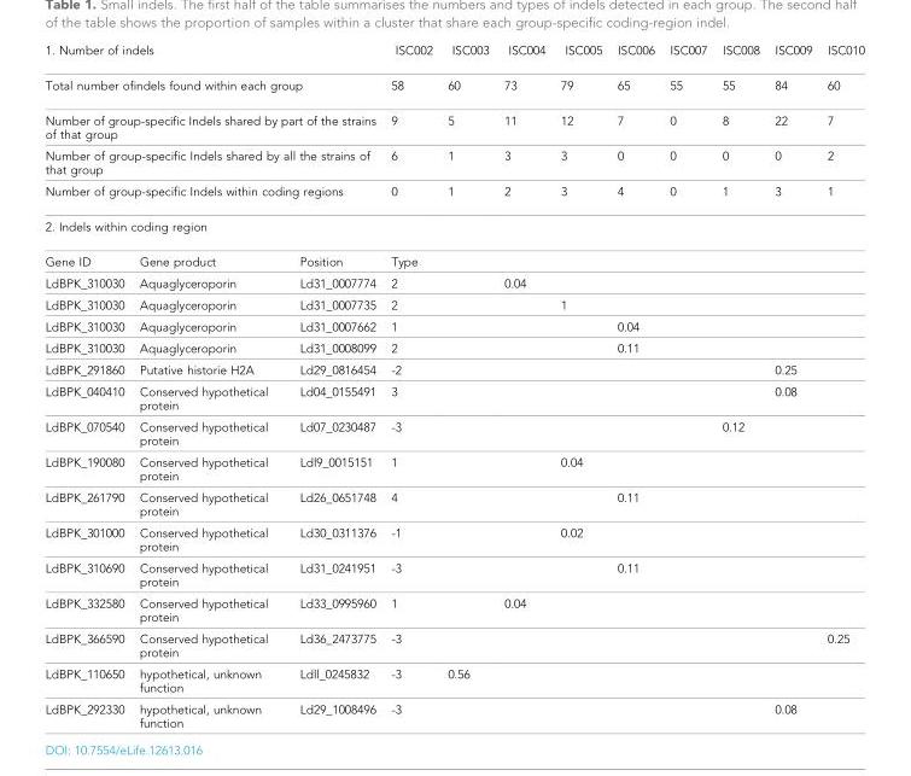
<table><tbody><tr><td colspan="3">1. Number of indels</td><td>ISC002</td><td>ISC003</td><td>ISC004</td><td>ISC005</td><td>ISC006</td><td>ISC007</td><td>ISC008</td><td>ISC009</td><td>ISC010</td></tr><tr><td colspan="3">Total number ofindels found within each group</td><td>58</td><td>60</td><td>73</td><td>79</td><td>65</td><td>55</td><td>55</td><td>84</td><td>60</td></tr><tr><td colspan="3">Number of group-specific Indels shared by part of the strains of that group</td><td>9</td><td>5</td><td>11</td><td>12</td><td>7</td><td>0</td><td>8</td><td>22</td><td>7</td></tr><tr><td colspan="3">Number of group-specific Indels shared by all the strains of that group</td><td>6</td><td>1</td><td>3</td><td>3</td><td>0</td><td>0</td><td>0</td><td>0</td><td>2</td></tr><tr><td colspan="3">Number of group-specific Indels within coding regions</td><td>0</td><td>1</td><td>2</td><td>3</td><td>4</td><td>0</td><td>1</td><td>3</td><td>1</td></tr><tr><td colspan="12">2. Indels within coding region</td></tr><tr><td>Gene ID</td><td>Gene product</td><td>Position</td><td>Type</td><td></td><td></td><td></td><td></td><td></td><td></td><td></td><td></td></tr><tr><td>LdBPK_310030</td><td>Aquaglyceroporin</td><td>Ld31_0007774</td><td>2</td><td></td><td>0.04</td><td></td><td></td><td></td><td></td><td></td><td></td></tr><tr><td>LdBPK_310030</td><td>Aquaglyceroporin</td><td>Ld31_0007735</td><td>2</td><td></td><td></td><td>1</td><td></td><td></td><td></td><td></td><td></td></tr><tr><td>LdBPK_310030</td><td>Aquaglyceroporin</td><td>Ld31_0007662</td><td>1</td><td></td><td></td><td></td><td>0.04</td><td></td><td></td><td></td><td></td></tr><tr><td>LdBPK_310030</td><td>Aquaglyceroporin</td><td>Ld31_0008099</td><td>2</td><td></td><td></td><td></td><td>0.11</td><td></td><td></td><td></td><td></td></tr><tr><td>LdBPK_291860</td><td>Putative historie H2A</td><td>Ld29_0816454</td><td>-2</td><td></td><td></td><td></td><td></td><td></td><td></td><td>0.25</td><td></td></tr><tr><td>LdBPK_040410</td><td>Conserved hypothetical protein</td><td>Ld04_0155491</td><td>3</td><td></td><td></td><td></td><td></td><td></td><td></td><td>0.08</td><td></td></tr><tr><td>LdBPK_070540</td><td>Conserved hypothetical protein</td><td>Ld07_0230487</td><td>-3</td><td></td><td></td><td></td><td></td><td></td><td>0.12</td><td></td><td></td></tr><tr><td>LdBPK_190080</td><td>Conserved hypothetical protein</td><td>Ldl9_0015151</td><td>1</td><td></td><td></td><td>0.04</td><td></td><td></td><td></td><td></td><td></td></tr><tr><td>LdBPK_261790</td><td>Conserved hypothetical protein</td><td>Ld26_0651748</td><td>4</td><td></td><td></td><td></td><td>0.11</td><td></td><td></td><td></td><td></td></tr><tr><td>LdBPK_301000</td><td>Conserved hypothetical protein</td><td>Ld30_0311376</td><td>-1</td><td></td><td></td><td>0.02</td><td></td><td></td><td></td><td></td><td></td></tr><tr><td>LdBPK_310690</td><td>Conserved hypothetical protein</td><td>Ld31_0241951</td><td>-3</td><td></td><td></td><td></td><td>0.11</td><td></td><td></td><td></td><td></td></tr><tr><td>LdBPK_332580</td><td>Conserved hypothetical protein</td><td>Ld33_0995960</td><td>1</td><td></td><td>0.04</td><td></td><td></td><td></td><td></td><td></td><td></td></tr><tr><td>LdBPK_366590</td><td>Conserved hypothetical protein</td><td>Ld36_2473775</td><td>-3</td><td></td><td></td><td></td><td></td><td></td><td></td><td></td><td>0.25</td></tr><tr><td>LdBPK_110650</td><td>hypothetical, unknown function</td><td>Ldll_0245832</td><td>-3</td><td>0.56</td><td></td><td></td><td></td><td></td><td></td><td></td><td></td></tr><tr><td>LdBPK_292330</td><td>hypothetical, unknown function</td><td>Ld29_1008496</td><td>-3</td><td></td><td></td><td></td><td></td><td></td><td></td><td>0.08</td><td></td></tr></tbody></table>